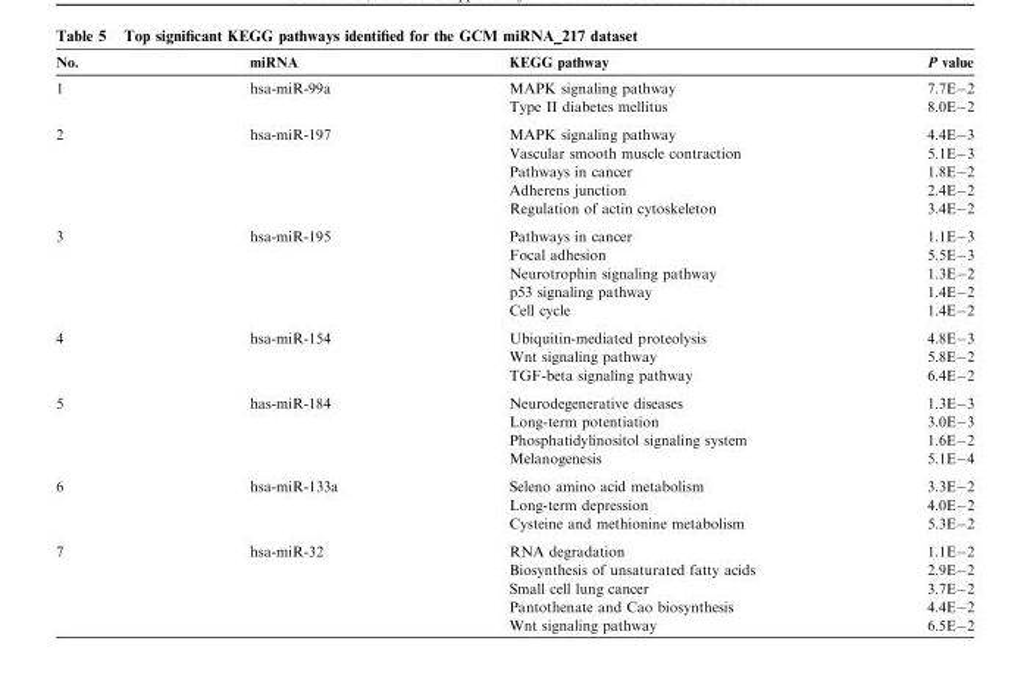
<table><thead><tr><td>No.</td><td>miRNA</td><td>KEGG pathway</td><td>P value</td></tr></thead><tbody><tr><td>1</td><td>hsa-miR-99a</td><td>MAPK signaling pathway Type II diabetes mellitus</td><td>7.7E−2 8.0E−2</td></tr><tr><td>2</td><td>hsa-miR-197</td><td>MAPK signaling pathway Vascular smooth muscle contraction Pathways in cancer Adherens junction Regulation of actin cytoskeleton</td><td>4.4E−3 5.1E−3 1.8E−2 2.4E−2 3.4E−2</td></tr><tr><td>3</td><td>hsa-miR-195</td><td>Pathways in cancer Focal adhesion Neurotrophin signaling pathway p53 signaling pathway Cell cycle</td><td>1.1E−3 5.5E−3 1.3E−2 1.4E−2 1.4E−2</td></tr><tr><td>4</td><td>hsa-miR-154</td><td>Ubiquitin-mediated proteolysis Wnt signaling pathway TGF-beta signaling pathway</td><td>4.8E−3 5.8E−2 6.4E−2</td></tr><tr><td>5</td><td>has-miR-184</td><td>Neurodegenerative diseases Long-term potentiation Phosphatidylinositol signaling system Melanogenesis</td><td>1.3E−3 3.0E−3 1.6E−2 5.1E−4</td></tr><tr><td>6</td><td>hsa-miR-133a</td><td>Seleno amino acid metabolism Long-term depression Cysteine and methionine metabolism</td><td>3.3E−2 4.0E−2 5.3E−2</td></tr><tr><td>7</td><td>hsa-miR-32</td><td>RNA degradation Biosynthesis of unsaturated fatty acids Small cell lung cancer Pantothenate and Cao biosynthesis Wnt signaling pathway</td><td>1.1E−2 2.9E−2 3.7E−2 4.4E−2 6.5E−2</td></tr></tbody></table>